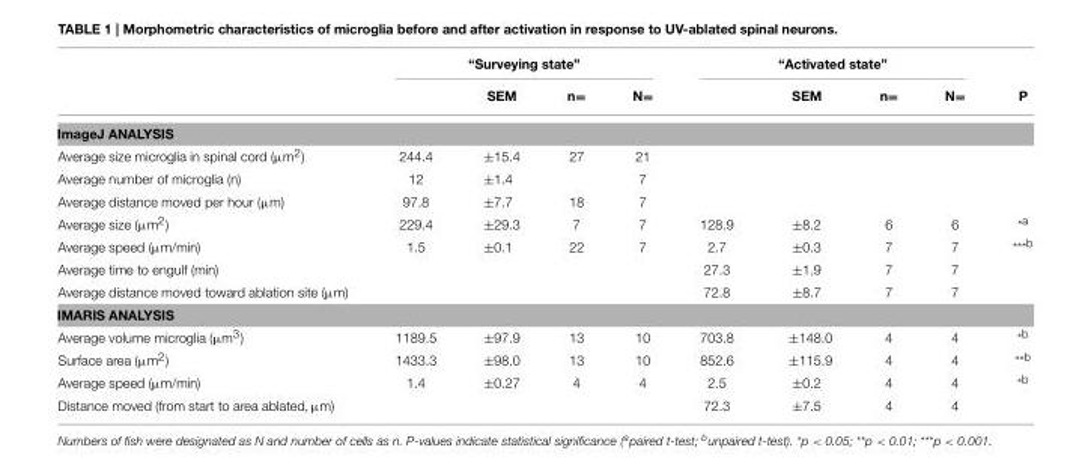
<table><thead><tr><td rowspan="2"></td><td colspan="4">“Surveying state”</td><td colspan="4">“Activated state”</td><td rowspan="2">P</td></tr><tr><td></td><td>SEM</td><td>n=</td><td>N=</td><td></td><td>SEM</td><td>n=</td><td>N=</td></tr></thead><tbody><tr><td colspan="10">ImageJ ANALYSIS</td></tr><tr><td>Average size microglia in spinal cord (µm<sup>2</sup>)</td><td>244.4</td><td>±15.4</td><td>27</td><td>21</td><td></td><td></td><td></td><td></td><td></td></tr><tr><td>Average number of microglia (n)</td><td>12</td><td>±1.4</td><td></td><td>7</td><td></td><td></td><td></td><td></td><td></td></tr><tr><td>Average distance moved per hour (µm)</td><td>97.8</td><td>±7.7</td><td>18</td><td>7</td><td></td><td></td><td></td><td></td><td></td></tr><tr><td>Average size (µm<sup>2</sup>)</td><td>229.4</td><td>±29.3</td><td>7</td><td>7</td><td>128.9</td><td>±8.2</td><td>6</td><td>6</td><td><sup>*a</sup></td></tr><tr><td>Average speed (µm/min)</td><td>1.5</td><td>±0.1</td><td>22</td><td>7</td><td>2.7</td><td>±0.3</td><td>7</td><td>7</td><td><sup>***b</sup></td></tr><tr><td>Average time to engulf (min)</td><td></td><td></td><td></td><td></td><td>27.3</td><td>±1.9</td><td>7</td><td>7</td><td></td></tr><tr><td>Average distance moved toward ablation site (µm)</td><td></td><td></td><td></td><td></td><td>72.8</td><td>±8.7</td><td>7</td><td>7</td><td></td></tr><tr><td colspan="10">IMARIS ANALYSIS</td></tr><tr><td>Average volume microglia (µm<sup>3</sup>)</td><td>1189.5</td><td>±97.9</td><td>13</td><td>10</td><td>703.8</td><td>±148.0</td><td>4</td><td>4</td><td><sup>*b</sup></td></tr><tr><td>Surface area (µm<sup>2</sup>)</td><td>1433.3</td><td>±98.0</td><td>13</td><td>10</td><td>852.6</td><td>±115.9</td><td>4</td><td>4</td><td><sup>**b</sup></td></tr><tr><td>Average speed (µm/min)</td><td>1.4</td><td>±0.27</td><td>4</td><td>4</td><td>2.5</td><td>±0.2</td><td>4</td><td>4</td><td><sup>*b</sup></td></tr><tr><td>Distance moved (from start to area ablated, µm)</td><td></td><td></td><td></td><td></td><td>72.3</td><td>±7.5</td><td>4</td><td>4</td><td></td></tr></tbody></table>